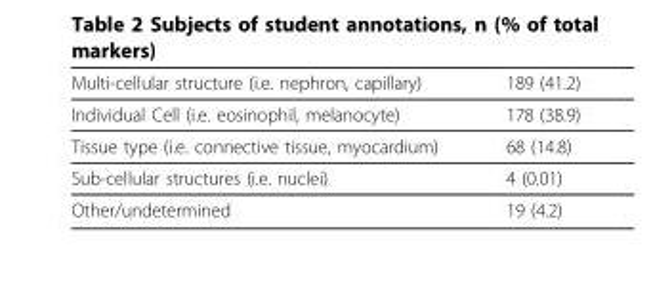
<table><thead><tr><td>Multi-cellular structure (i.e. nephron, capillary)</td><td>189 (41.2)</td></tr></thead><tbody><tr><td>Individual Cell (i.e. eosinophil, melanocyte)</td><td>178 (38.9)</td></tr><tr><td>Tissue type (i.e. connective tissue, myocardium)</td><td>68 (14.8)</td></tr><tr><td>Sub-cellular structures (i.e. nuclei)</td><td>4 (0.01)</td></tr><tr><td>Other/undetermined</td><td>19 (4.2)</td></tr></tbody></table>